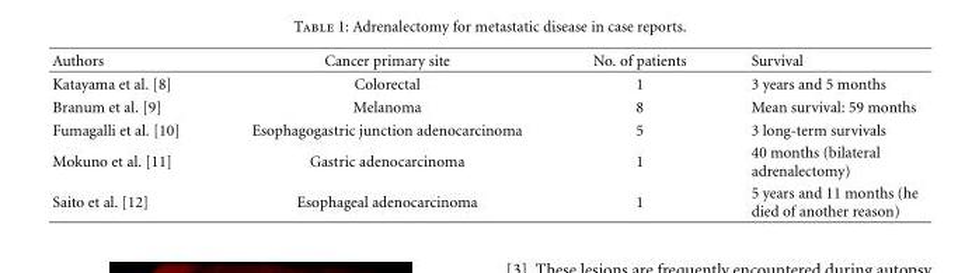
<table><thead><tr><td>Authors</td><td>Cancer primary site</td><td>No. of patients</td><td>Survival</td></tr></thead><tbody><tr><td>Katayama et al. [8]</td><td>Colorectal</td><td>1</td><td>3 years and 5 months</td></tr><tr><td>Branum et al. [9]</td><td>Melanoma</td><td>8</td><td>Mean survival: 59 months</td></tr><tr><td>Fumagalli et al. [10]</td><td>Esophagogastric junction adenocarcinoma</td><td>5</td><td>3 long-term survivals</td></tr><tr><td>Mokuno et al. [11]</td><td>Gastric adenocarcinoma</td><td>1</td><td>40 months (bilateral adrenalectomy)</td></tr><tr><td>Saito et al. [12]</td><td>Esophageal adenocarcinoma</td><td>1</td><td>5 years and 11 months (he died of another reason)</td></tr></tbody></table>